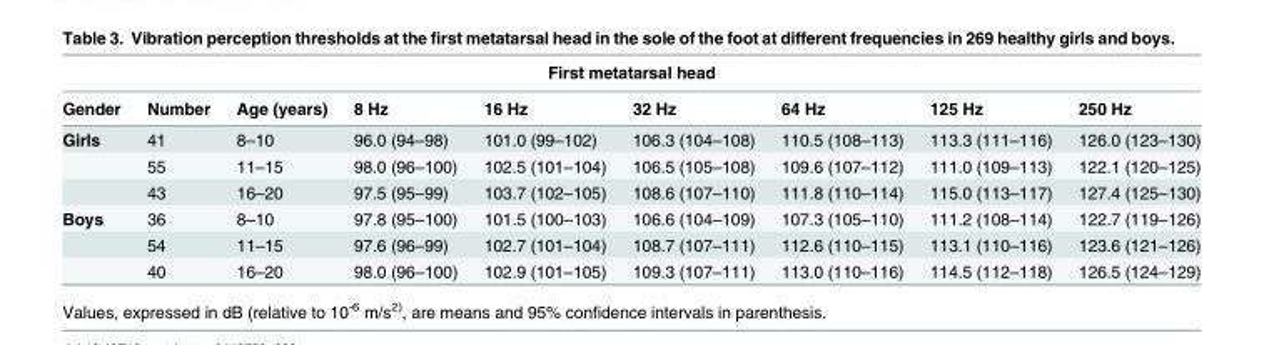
<table><thead><tr><td colspan="9">First metatarsal head</td></tr><tr><td>Gender</td><td>Number</td><td>Age (years)</td><td>8 Hz</td><td>16 Hz</td><td>32 Hz</td><td>64 Hz</td><td>125 Hz</td><td>250 Hz</td></tr></thead><tbody><tr><td rowspan="3">Girls</td><td>41</td><td>8–10</td><td>96.0 (94–98)</td><td>101.0 (99–102)</td><td>106.3 (104–108)</td><td>110.5 (108–113)</td><td>113.3 (111–116)</td><td>126.0 (123–130)</td></tr><tr><td>55</td><td>11–15</td><td>98.0 (96–100)</td><td>102.5 (101–104)</td><td>106.5 (105–108)</td><td>109.6 (107–112)</td><td>111.0 (109–113)</td><td>122.1 (120–125)</td></tr><tr><td>43</td><td>16–20</td><td>97.5 (95–99)</td><td>103.7 (102–105)</td><td>108.6 (107–110)</td><td>111.8 (110–114)</td><td>115.0 (113–117)</td><td>127.4 (125–130)</td></tr><tr><td rowspan="3">Boys</td><td>36</td><td>8–10</td><td>97.8 (95–100)</td><td>101.5 (100–103)</td><td>106.6 (104–109)</td><td>107.3 (105–110)</td><td>111.2 (108–114)</td><td>122.7 (119–126)</td></tr><tr><td>54</td><td>11–15</td><td>97.6 (96–99)</td><td>102.7 (101–104)</td><td>108.7 (107–111)</td><td>112.6 (110–115)</td><td>113.1 (110–116)</td><td>123.6 (121–126)</td></tr><tr><td>40</td><td>16–20</td><td>98.0 (96–100)</td><td>102.9 (101–105)</td><td>109.3 (107–111)</td><td>113.0 (110–116)</td><td>114.5 (112–118)</td><td>126.5 (124–129)</td></tr></tbody></table>